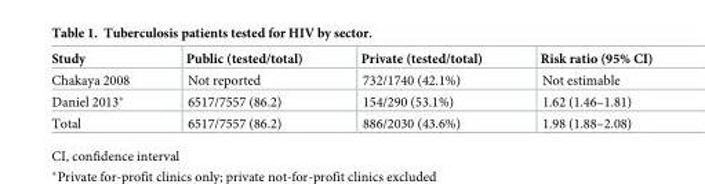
<table><thead><tr><td>Study</td><td>Public (tested/total)</td><td>Private (tested/total)</td><td>Risk ratio (95% CI)</td></tr></thead><tbody><tr><td>Chakaya 2008</td><td>Not reported</td><td>732/1740 (42.1%)</td><td>Not estimable</td></tr><tr><td>Daniel 2013*</td><td>6517/7557 (86.2)</td><td>154/290 (53.1%)</td><td>1.62 (1.46–1.81)</td></tr><tr><td>Total</td><td>6517/7557 (86.2)</td><td>886/2030 (43.6%)</td><td>1.98 (1.88–2.08)</td></tr></tbody></table>